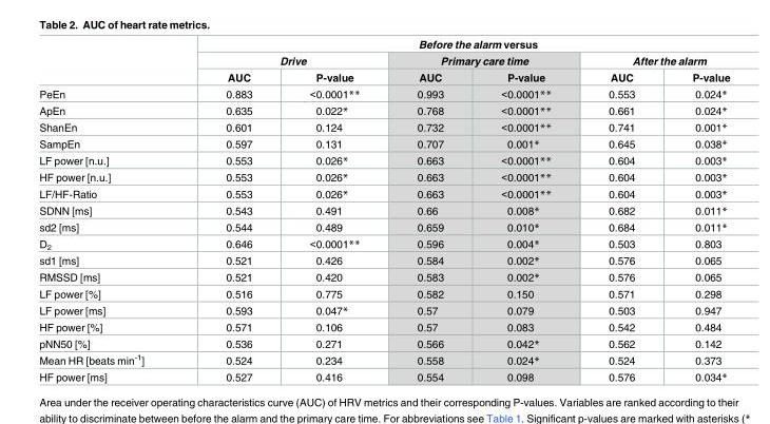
<table><thead><tr><td rowspan="3"></td><td colspan="6">Before the alarm versus</td></tr><tr><td colspan="2">Drive</td><td colspan="2">Primary care time</td><td colspan="2">After the alarm</td></tr><tr><td>AUC</td><td>P-value</td><td>AUC</td><td>P-value</td><td>AUC</td><td>P-value</td></tr></thead><tbody><tr><td>PeEn</td><td>0.883</td><td>&lt;0.0001**</td><td>0.993</td><td>&lt;0.0001**</td><td>0.553</td><td>0.024*</td></tr><tr><td>ApEn</td><td>0.635</td><td>0.022*</td><td>0.768</td><td>&lt;0.0001**</td><td>0.661</td><td>0.024*</td></tr><tr><td>ShanEn</td><td>0.601</td><td>0.124</td><td>0.732</td><td>&lt;0.0001**</td><td>0.741</td><td>0.001*</td></tr><tr><td>SampEn</td><td>0.597</td><td>0.131</td><td>0.707</td><td>0.001*</td><td>0.645</td><td>0.038*</td></tr><tr><td>LF power [n.u.]</td><td>0.553</td><td>0.026*</td><td>0.663</td><td>&lt;0.0001**</td><td>0.604</td><td>0.003*</td></tr><tr><td>HF power [n.u.]</td><td>0.553</td><td>0.026*</td><td>0.663</td><td>&lt;0.0001**</td><td>0.604</td><td>0.003*</td></tr><tr><td>LF/HF-Ratio</td><td>0.553</td><td>0.026*</td><td>0.663</td><td>&lt;0.0001**</td><td>0.604</td><td>0.003*</td></tr><tr><td>SDNN [ms]</td><td>0.543</td><td>0.491</td><td>0.66</td><td>0.008*</td><td>0.682</td><td>0.011*</td></tr><tr><td>sd2 [ms]</td><td>0.544</td><td>0.489</td><td>0.659</td><td>0.010*</td><td>0.684</td><td>0.011*</td></tr><tr><td>D<sub>2</sub></td><td>0.646</td><td>&lt;0.0001**</td><td>0.596</td><td>0.004*</td><td>0.503</td><td>0.803</td></tr><tr><td>sd1 [ms]</td><td>0.521</td><td>0.426</td><td>0.584</td><td>0.002*</td><td>0.576</td><td>0.065</td></tr><tr><td>RMSSD [ms]</td><td>0.521</td><td>0.420</td><td>0.583</td><td>0.002*</td><td>0.576</td><td>0.065</td></tr><tr><td>LF power [%]</td><td>0.516</td><td>0.775</td><td>0.582</td><td>0.150</td><td>0.571</td><td>0.298</td></tr><tr><td>LF power [ms]</td><td>0.593</td><td>0.047*</td><td>0.57</td><td>0.079</td><td>0.503</td><td>0.947</td></tr><tr><td>HF power [%]</td><td>0.571</td><td>0.106</td><td>0.57</td><td>0.083</td><td>0.542</td><td>0.484</td></tr><tr><td>pNN50 [%]</td><td>0.536</td><td>0.271</td><td>0.566</td><td>0.042*</td><td>0.562</td><td>0.142</td></tr><tr><td>Mean HR [beats min<sup>-1</sup>]</td><td>0.524</td><td>0.234</td><td>0.558</td><td>0.024*</td><td>0.524</td><td>0.373</td></tr><tr><td>HF power [ms]</td><td>0.527</td><td>0.416</td><td>0.554</td><td>0.098</td><td>0.576</td><td>0.034*</td></tr></tbody></table>